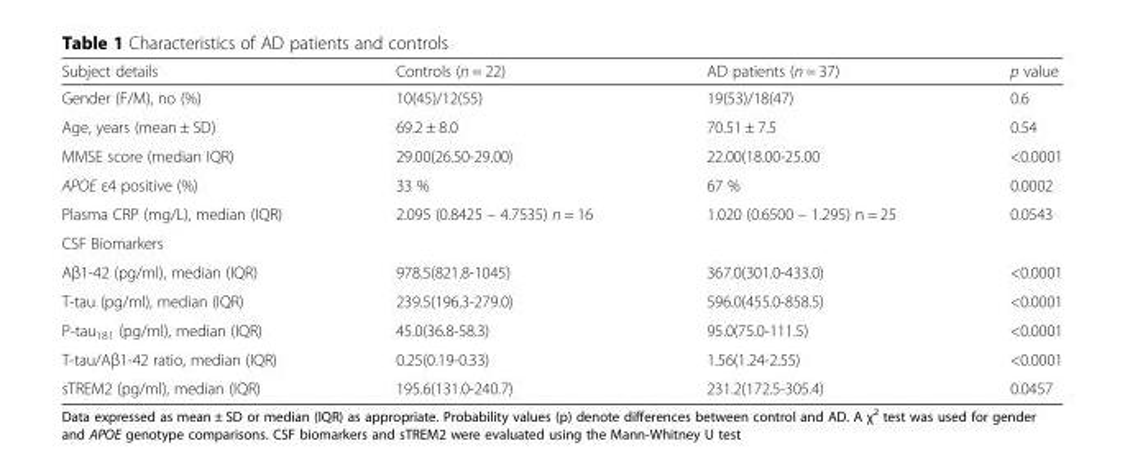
<table><thead><tr><td>Subject details</td><td>Controls (n = 22)</td><td>AD patients (n = 37)</td><td>p value</td></tr></thead><tbody><tr><td>Gender (F/M), no (%)</td><td>10(45)/12(55)</td><td>19(53)/18(47)</td><td>0.6</td></tr><tr><td>Age, years (mean ± SD)</td><td>69.2 ± 8.0</td><td>70.51 ± 7.5</td><td>0.54</td></tr><tr><td>MMSE score (median IQR)</td><td>29.00(26.50-29.00)</td><td>22.00(18.00-25.00</td><td>&lt;0.0001</td></tr><tr><td>APOE ε4 positive (%)</td><td>33 %</td><td>67 %</td><td>0.0002</td></tr><tr><td>Plasma CRP (mg/L), median (IQR)</td><td>2.095 (0.8425 – 4.7535) n = 16</td><td>1.020 (0.6500 – 1.295) n = 25</td><td>0.0543</td></tr><tr><td colspan="4">CSF Biomarkers</td></tr><tr><td>Aβ1-42 (pg/ml), median (IQR)</td><td>978.5(821.8-1045)</td><td>367.0(301.0-433.0)</td><td>&lt;0.0001</td></tr><tr><td>T-tau (pg/ml), median (IQR)</td><td>239.5(196.3-279.0)</td><td>596.0(455.0-858.5)</td><td>&lt;0.0001</td></tr><tr><td>P-tau<sub>181</sub> (pg/ml), median (IQR)</td><td>45.0(36.8-58.3)</td><td>95.0(75.0-111.5)</td><td>&lt;0.0001</td></tr><tr><td>T-tau/Aβ1-42 ratio, median (IQR)</td><td>0.25(0.19-0.33)</td><td>1.56(1.24-2.55)</td><td>&lt;0.0001</td></tr><tr><td>sTREM2 (pg/ml), median (IQR)</td><td>195.6(131.0-240.7)</td><td>231.2(172.5-305.4)</td><td>0.0457</td></tr></tbody></table>